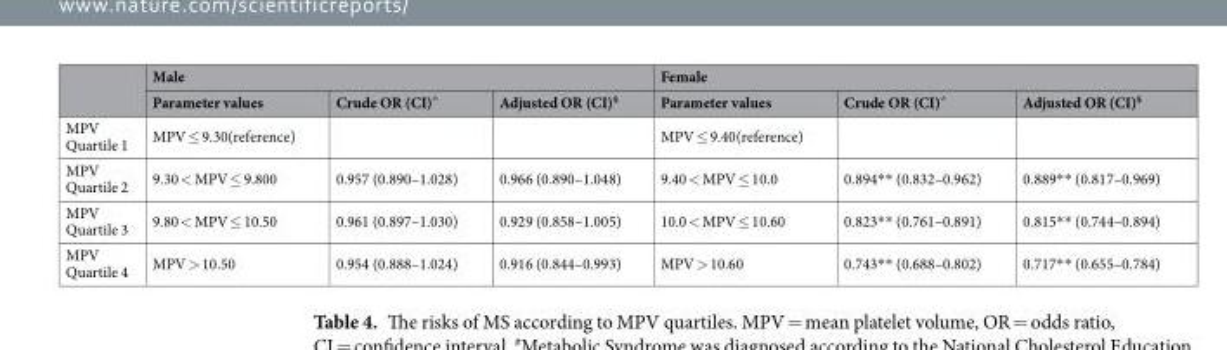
<table><thead><tr><td rowspan="2"></td><td colspan="3">Male</td><td colspan="3">Female</td></tr><tr><td>Parameter values</td><td>Crude OR (CI)<sup>^</sup></td><td>Adjusted OR (CI)<sup>$</sup></td><td>Parameter values</td><td>Crude OR (CI)<sup>^</sup></td><td>Adjusted OR (CI)<sup>$</sup></td></tr></thead><tbody><tr><td>MPV Quartile 1</td><td>MPV ≤ 9.30(reference)</td><td></td><td></td><td>MPV ≤ 9.40(reference)</td><td></td><td></td></tr><tr><td>MPV Quartile 2</td><td>9.30 &lt; MPV ≤ 9.800</td><td>0.957 (0.890–1.028)</td><td>0.966 (0.890–1.048)</td><td>9.40 &lt; MPV ≤ 10.0</td><td>0.894** (0.832–0.962)</td><td>0.889** (0.817–0.969)</td></tr><tr><td>MPV Quartile 3</td><td>9.80 &lt; MPV ≤ 10.50</td><td>0.961 (0.897–1.030)</td><td>0.929 (0.858–1.005)</td><td>10.0 &lt; MPV ≤ 10.60</td><td>0.823** (0.761–0.891)</td><td>0.815** (0.744–0.894)</td></tr><tr><td>MPV Quartile 4</td><td>MPV &gt; 10.50</td><td>0.954 (0.888–1.024)</td><td>0.916 (0.844–0.993)</td><td>MPV &gt; 10.60</td><td>0.743** (0.688–0.802)</td><td>0.717** (0.655–0.784)</td></tr></tbody></table>